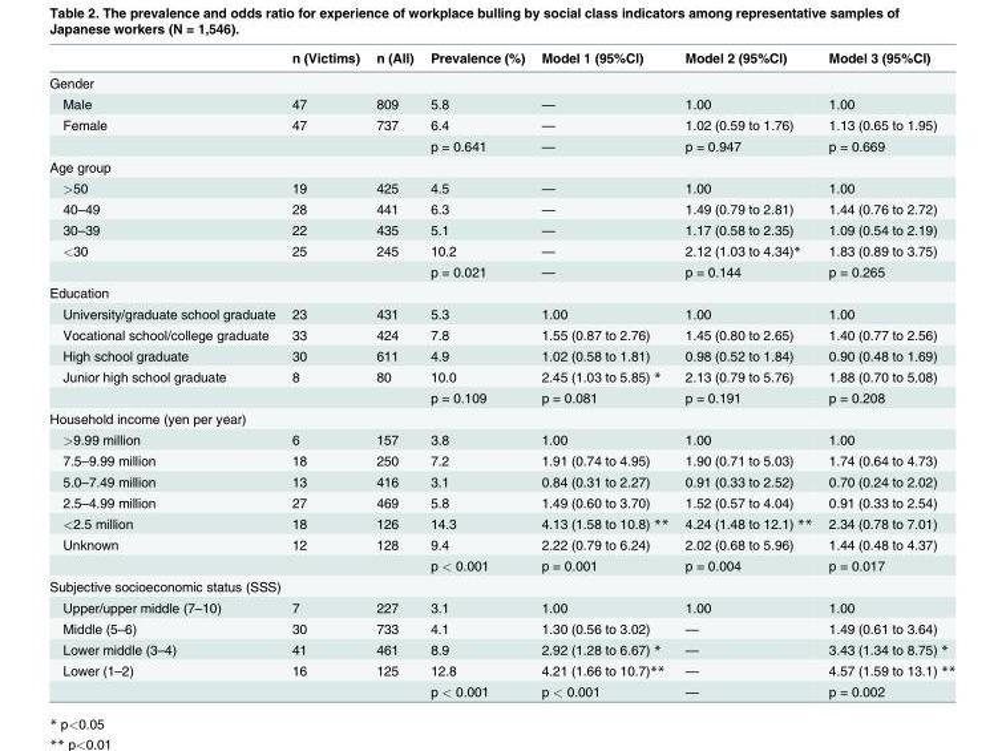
<table><thead><tr><td></td><td>n (Victims)</td><td>n (All)</td><td>Prevalence (%)</td><td>Model 1 (95%Cl)</td><td>Model 2 (95%Cl)</td><td>Model 3 (95%Cl)</td></tr></thead><tbody><tr><td colspan="7">Gender</td></tr><tr><td>Male</td><td>47</td><td>809</td><td>5.8</td><td>—</td><td>1.00</td><td>1.00</td></tr><tr><td rowspan="2">Female</td><td>47</td><td>737</td><td>6.4</td><td>—</td><td>1.02 (0.59 to 1.76)</td><td>1.13 (0.65 to 1.95)</td></tr><tr><td></td><td></td><td>p = 0.641</td><td>—</td><td>p = 0.947</td><td>p = 0.669</td></tr><tr><td colspan="7">Age group</td></tr><tr><td>&gt;50</td><td>19</td><td>425</td><td>4.5</td><td>—</td><td>1.00</td><td>1.00</td></tr><tr><td>40–49</td><td>28</td><td>441</td><td>6.3</td><td>—</td><td>1.49 (0.79 to 2.81)</td><td>1.44 (0.76 to 2.72)</td></tr><tr><td>30–39</td><td>22</td><td>435</td><td>5.1</td><td>—</td><td>1.17 (0.58 to 2.35)</td><td>1.09 (0.54 to 2.19)</td></tr><tr><td rowspan="2">&lt;30</td><td>25</td><td>245</td><td>10.2</td><td>—</td><td>2.12 (1.03 to 4.34)*</td><td>1.83 (0.89 to 3.75)</td></tr><tr><td></td><td></td><td>p = 0.021</td><td>—</td><td>p = 0.144</td><td>p = 0.265</td></tr><tr><td colspan="7">Education</td></tr><tr><td>University/graduate school graduate</td><td>23</td><td>431</td><td>5.3</td><td>1.00</td><td>1.00</td><td>1.00</td></tr><tr><td>Vocational school/college graduate</td><td>33</td><td>424</td><td>7.8</td><td>1.55 (0.87 to 2.76)</td><td>1.45 (0.80 to 2.65)</td><td>1.40 (0.77 to 2.56)</td></tr><tr><td>High school graduate</td><td>30</td><td>611</td><td>4.9</td><td>1.02 (0.58 to 1.81)</td><td>0.98 (0.52 to 1.84)</td><td>0.90 (0.48 to 1.69)</td></tr><tr><td rowspan="2">Junior high school graduate</td><td>8</td><td>80</td><td>10.0</td><td>2.45 (1.03 to 5.85) *</td><td>2.13 (0.79 to 5.76)</td><td>1.88 (0.70 to 5.08)</td></tr><tr><td></td><td></td><td>p = 0.109</td><td>p = 0.081</td><td>p = 0.191</td><td>p = 0.208</td></tr><tr><td colspan="7">Household income (yen per year)</td></tr><tr><td>&gt;9.99 million</td><td>6</td><td>157</td><td>3.8</td><td>1.00</td><td>1.00</td><td>1.00</td></tr><tr><td>7.5–9.99 million</td><td>18</td><td>250</td><td>7.2</td><td>1.91 (0.74 to 4.95)</td><td>1.90 (0.71 to 5.03)</td><td>1.74 (0.64 to 4.73)</td></tr><tr><td>5.0–7.49 million</td><td>13</td><td>416</td><td>3.1</td><td>0.84 (0.31 to 2.27)</td><td>0.91 (0.33 to 2.52)</td><td>0.70 (0.24 to 2.02)</td></tr><tr><td>2.5–4.99 million</td><td>27</td><td>469</td><td>5.8</td><td>1.49 (0.60 to 3.70)</td><td>1.52 (0.57 to 4.04)</td><td>0.91 (0.33 to 2.54)</td></tr><tr><td>&lt;2.5 million</td><td>18</td><td>126</td><td>14.3</td><td>4.13 (1.58 to 10.8) **</td><td>4.24 (1.48 to 12.1) **</td><td>2.34 (0.78 to 7.01)</td></tr><tr><td rowspan="2">Unknown</td><td>12</td><td>128</td><td>9.4</td><td>2.22 (0.79 to 6.24)</td><td>2.02 (0.68 to 5.96)</td><td>1.44 (0.48 to 4.37)</td></tr><tr><td></td><td></td><td>p &lt; 0.001</td><td>p = 0.001</td><td>p = 0.004</td><td>p = 0.017</td></tr><tr><td colspan="7">Subjective socioeconomic status (SSS)</td></tr><tr><td>Upper/upper middle (7–10)</td><td>7</td><td>227</td><td>3.1</td><td>1.00</td><td>1.00</td><td>1.00</td></tr><tr><td>Middle (5–6)</td><td>30</td><td>733</td><td>4.1</td><td>1.30 (0.56 to 3.02)</td><td>—</td><td>1.49 (0.61 to 3.64)</td></tr><tr><td>Lower middle (3–4)</td><td>41</td><td>461</td><td>8.9</td><td>2.92 (1.28 to 6.67) *</td><td>—</td><td>3.43 (1.34 to 8.75) *</td></tr><tr><td rowspan="2">Lower (1–2)</td><td>16</td><td>125</td><td>12.8</td><td>4.21 (1.66 to 10.7)**</td><td>—</td><td>4.57 (1.59 to 13.1) **</td></tr><tr><td></td><td></td><td>p &lt; 0.001</td><td>p &lt; 0.001</td><td>—</td><td>p = 0.002</td></tr></tbody></table>